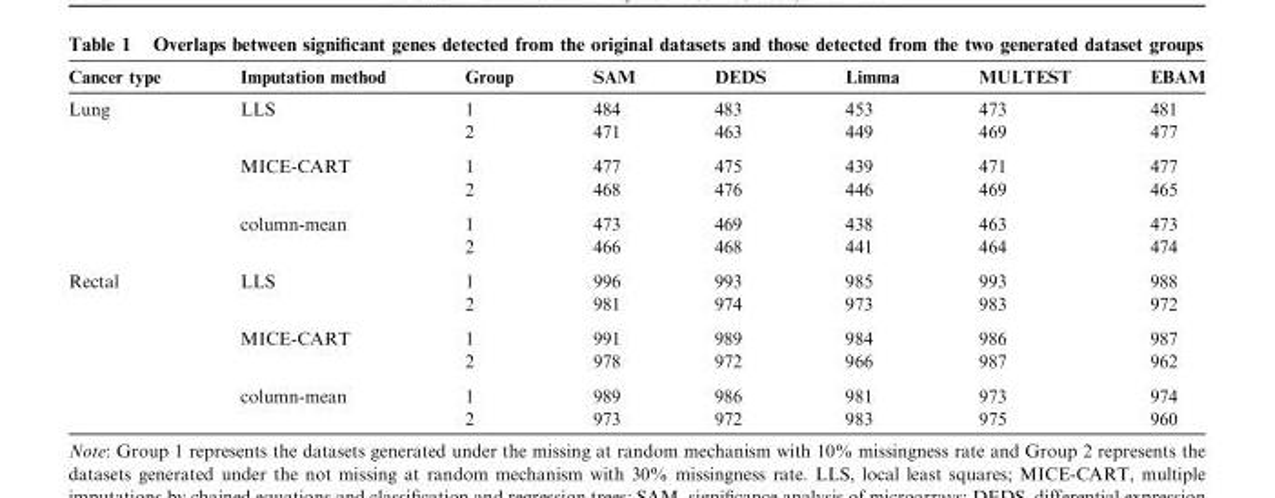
<table><thead><tr><td>Cancer type</td><td>Imputation method</td><td>Group</td><td>SAM</td><td>DEDS</td><td>Limma</td><td>MULTEST</td><td>EBAM</td></tr></thead><tbody><tr><td rowspan="6">Lung</td><td>LLS</td><td>1</td><td>484</td><td>483</td><td>453</td><td>473</td><td>481</td></tr><tr><td></td><td>2</td><td>471</td><td>463</td><td>449</td><td>469</td><td>477</td></tr><tr><td>MICE-CART</td><td>1</td><td>477</td><td>475</td><td>439</td><td>471</td><td>477</td></tr><tr><td></td><td>2</td><td>468</td><td>476</td><td>446</td><td>469</td><td>465</td></tr><tr><td>column-mean</td><td>1</td><td>473</td><td>469</td><td>438</td><td>463</td><td>473</td></tr><tr><td></td><td>2</td><td>466</td><td>468</td><td>441</td><td>464</td><td>474</td></tr><tr><td rowspan="6">Rectal</td><td>LLS</td><td>1</td><td>996</td><td>993</td><td>985</td><td>993</td><td>988</td></tr><tr><td></td><td>2</td><td>981</td><td>974</td><td>973</td><td>983</td><td>972</td></tr><tr><td>MICE-CART</td><td>1</td><td>991</td><td>989</td><td>984</td><td>986</td><td>987</td></tr><tr><td></td><td>2</td><td>978</td><td>972</td><td>966</td><td>987</td><td>962</td></tr><tr><td>column-mean</td><td>1</td><td>989</td><td>986</td><td>981</td><td>973</td><td>974</td></tr><tr><td></td><td>2</td><td>973</td><td>972</td><td>983</td><td>975</td><td>960</td></tr></tbody></table>